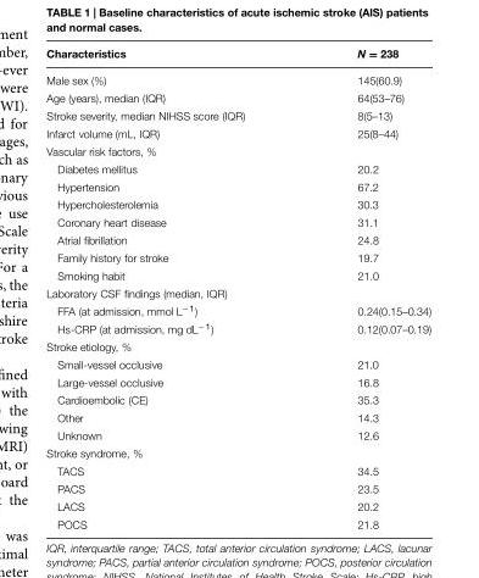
<table><thead><tr><td>Characteristics</td><td>N = 238</td></tr></thead><tbody><tr><td>Male sex (%)</td><td>145(60.9)</td></tr><tr><td>Age (years), median (IQR)</td><td>64(53–76)</td></tr><tr><td>Stroke severity, median NIHSS score (IQR)</td><td>8(5–13)</td></tr><tr><td>Infarct volume (mL, IQR)</td><td>25(8–44)</td></tr><tr><td colspan="2">Vascular risk factors, %</td></tr><tr><td>Diabetes mellitus</td><td>20.2</td></tr><tr><td>Hypertension</td><td>67.2</td></tr><tr><td>Hypercholesterolemia</td><td>30.3</td></tr><tr><td>Coronary heart disease</td><td>31.1</td></tr><tr><td>Atrial fibrillation</td><td>24.8</td></tr><tr><td>Family history for stroke</td><td>19.7</td></tr><tr><td>Smoking habit</td><td>21.0</td></tr><tr><td colspan="2">Laboratory CSF findings (median, IQR)</td></tr><tr><td>FFA (at admission, mmol L<sup>−1</sup>)</td><td>0.24(0.15–0.34)</td></tr><tr><td>Hs-CRP (at admission, mg dL<sup>−1</sup>)</td><td>0.12(0.07–0.19)</td></tr><tr><td colspan="2">Stroke etiology, %</td></tr><tr><td>Small-vessel occlusive</td><td>21.0</td></tr><tr><td>Large-vessel occlusive</td><td>16.8</td></tr><tr><td>Cardioembolic (CE)</td><td>35.3</td></tr><tr><td>Other</td><td>14.3</td></tr><tr><td>Unknown</td><td>12.6</td></tr><tr><td colspan="2">Stroke syndrome, %</td></tr><tr><td>TACS</td><td>34.5</td></tr><tr><td>PACS</td><td>23.5</td></tr><tr><td>LACS</td><td>20.2</td></tr><tr><td>POCS</td><td>21.8</td></tr></tbody></table>